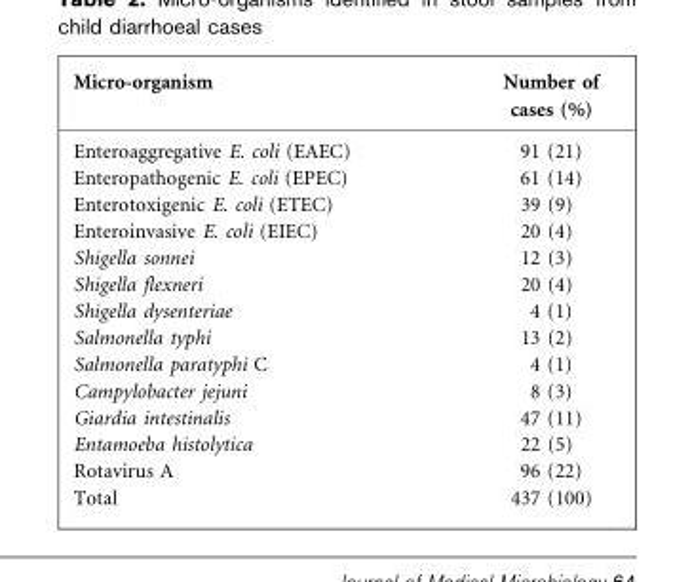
<table><thead><tr><td>Micro-organism</td><td>Number of cases (%)</td></tr></thead><tbody><tr><td>Enteroaggregative E. coli (EAEC)</td><td>91 (21)</td></tr><tr><td>Enteropathogenic E. coli (EPEC)</td><td>61 (14)</td></tr><tr><td>Enterotoxigenic E. coli (ETEC)</td><td>39 (9)</td></tr><tr><td>Enteroinvasive E. coli (EIEC)</td><td>20 (4)</td></tr><tr><td>Shigella sonnei</td><td>12 (3)</td></tr><tr><td>Shigella flexneri</td><td>20 (4)</td></tr><tr><td>Shigella dysenteriae</td><td>4 (1)</td></tr><tr><td>Salmonella typhi</td><td>13 (2)</td></tr><tr><td>Salmonella paratyphi C</td><td>4 (1)</td></tr><tr><td>Campylobacter jejuni</td><td>8 (3)</td></tr><tr><td>Giardia intestinalis</td><td>47 (11)</td></tr><tr><td>Entamoeba histolytica</td><td>22 (5)</td></tr><tr><td>Rotavirus A</td><td>96 (22)</td></tr><tr><td>Total</td><td>437 (100)</td></tr></tbody></table>